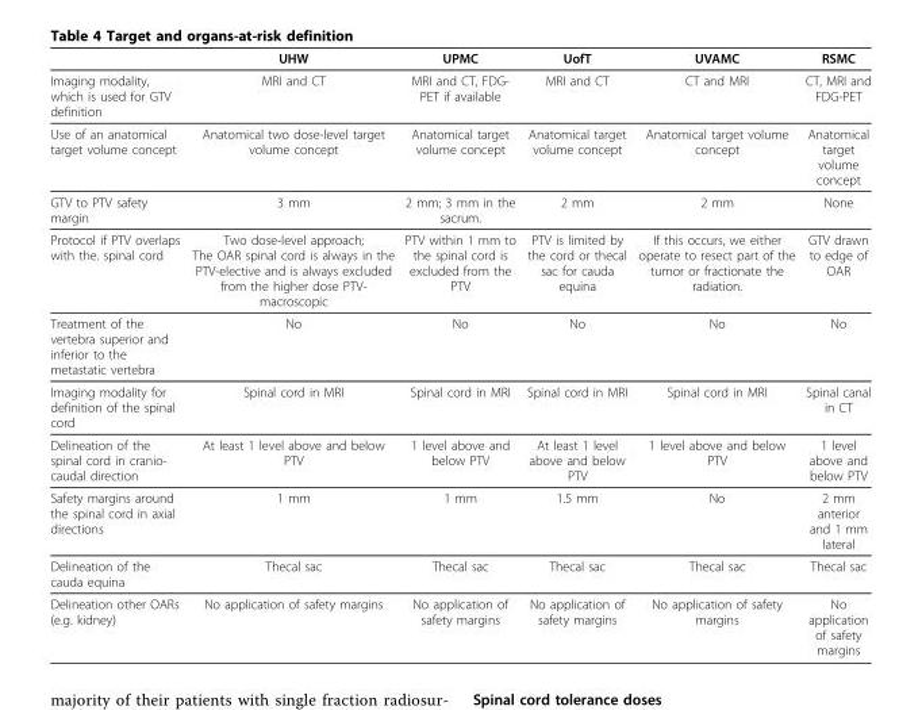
<table><thead><tr><td></td><td>UHW</td><td>UPMC</td><td>UofT</td><td>UVAMC</td><td>RSMC</td></tr></thead><tbody><tr><td>Imaging modality, which is used for GTV definition</td><td>MRI and CT</td><td>MRI and CT, FDG- PET if available</td><td>MRI and CT</td><td>CT and MRI</td><td>CT, MRI and FDG-PET</td></tr><tr><td>Use of an anatomical target volume concept</td><td>Anatomical two dose-level target volume concept</td><td>Anatomical target volume concept</td><td>Anatomical target volume concept</td><td>Anatomical target volume concept</td><td>Anatomical target volume concept</td></tr><tr><td>GTV to PTV safety margin</td><td>3 mm</td><td>2 mm; 3 mm in the sacrum.</td><td>2 mm</td><td>2 mm</td><td>None</td></tr><tr><td>Protocol if PTV overlaps with the. spinal cord</td><td>Two dose-level approach; The OAR spinal cord is always in the PTV-elective and is always excluded from the higher dose PTV- macroscopic</td><td>PTV within 1 mm to the spinal cord is excluded from the PTV</td><td>PTV is limited by the cord or thecal sac for cauda equina</td><td>If this occurs, we either operate to resect part of the tumor or fractionate the radiation.</td><td>GTV drawn to edge of OAR</td></tr><tr><td>Treatment of the vertebra superior and inferior to the metastatic vertebra</td><td>No</td><td>No</td><td>No</td><td>No</td><td>No</td></tr><tr><td>Imaging modality for definition of the spinal cord</td><td>Spinal cord in MRI</td><td>Spinal cord in MRI</td><td>Spinal cord in MRI</td><td>Spinal cord in MRI</td><td>Spinal canal in CT</td></tr><tr><td>Delineation of the spinal cord in cranio- caudal direction</td><td>At least 1 level above and below PTV</td><td>1 level above and below PTV</td><td>At least 1 level above and below PTV</td><td>1 level above and below PTV</td><td>1 level above and below PTV</td></tr><tr><td>Safety margins around the spinal cord in axial directions</td><td>1 mm</td><td>1 mm</td><td>1.5 mm</td><td>No</td><td>2 mm anterior and 1 mm lateral</td></tr><tr><td>Delineation of the cauda equina</td><td>Thecal sac</td><td>Thecal sac</td><td>Thecal sac</td><td>Thecal sac</td><td>Thecal sac</td></tr><tr><td>Delineation other OARs (e.g. kidney)</td><td>No application of safety margins</td><td>No application of safety margins</td><td>No application of safety margins</td><td>No application of safety margins</td><td>No application of safety margins</td></tr></tbody></table>